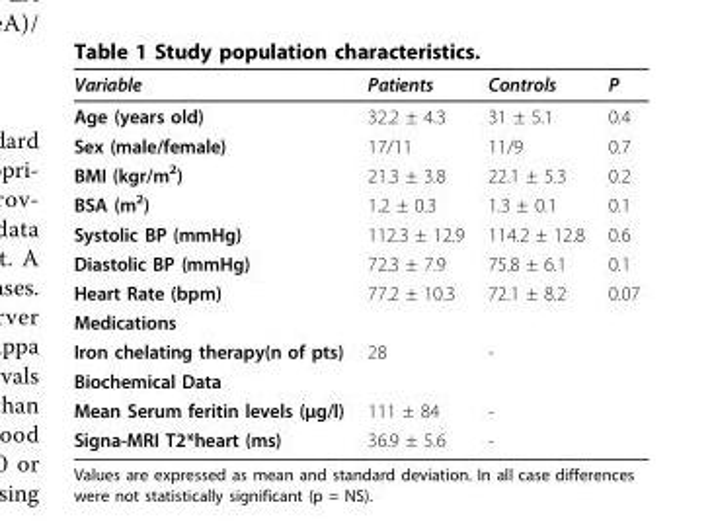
<table><thead><tr><td>Variable</td><td>Patients</td><td>Controls</td><td>P</td></tr></thead><tbody><tr><td>Age (years old)</td><td>32.2 ± 4.3</td><td>31 ± 5.1</td><td>0.4</td></tr><tr><td>Sex (male/female)</td><td>17/11</td><td>11/9</td><td>0.7</td></tr><tr><td>BMI (kgr/m<sup>2</sup>)</td><td>21.3 ± 3.8</td><td>22.1 ± 5.3</td><td>0.2</td></tr><tr><td>BSA (m<sup>2</sup>)</td><td>1.2 ± 0.3</td><td>1.3 ± 0.1</td><td>0.1</td></tr><tr><td>Systolic BP (mmHg)</td><td>112.3 ± 12.9</td><td>114.2 ± 12.8</td><td>0.6</td></tr><tr><td>Diastolic BP (mmHg)</td><td>72.3 ± 7.9</td><td>75.8 ± 6.1</td><td>0.1</td></tr><tr><td>Heart Rate (bpm)</td><td>77.2 ± 10.3</td><td>72.1 ± 8.2</td><td>0.07</td></tr><tr><td colspan="4">Medications</td></tr><tr><td>Iron chelating therapy(n of pts)</td><td>28</td><td>-</td><td></td></tr><tr><td colspan="4">Biochemical Data</td></tr><tr><td>Mean Serum feritin levels (μg/l)</td><td>111 ± 84</td><td>-</td><td></td></tr><tr><td>Signa-MRI T2*heart (ms)</td><td>36.9 ± 5.6</td><td>-</td><td></td></tr></tbody></table>